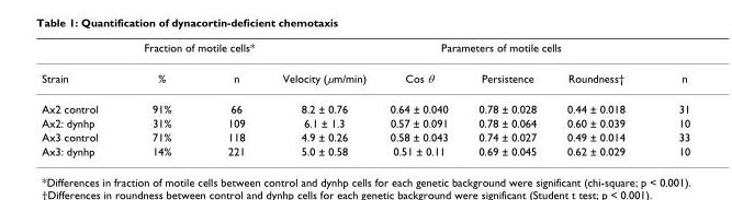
<table><thead><tr><td rowspan="2">Strain</td><td colspan="2">Fraction of motile cells*</td><td colspan="5">Parameters of motile cells</td></tr><tr><td>%</td><td>n</td><td>Velocity (μm/min)</td><td>Cos θ</td><td>Persistence</td><td>Roundness†</td><td>n</td></tr></thead><tbody><tr><td>Ax2 control</td><td>91%</td><td>66</td><td>8.2 ± 0.76</td><td>0.64 ± 0.040</td><td>0.78 ± 0.028</td><td>0.44 ± 0.018</td><td>31</td></tr><tr><td>Ax2: dynhp</td><td>31%</td><td>109</td><td>6.1 ± 1.3</td><td>0.57 ± 0.091</td><td>0.78 ± 0.064</td><td>0.60 ± 0.039</td><td>10</td></tr><tr><td>Ax3 control</td><td>71%</td><td>118</td><td>4.9 ± 0.26</td><td>0.58 ± 0.043</td><td>0.74 ± 0.027</td><td>0.49 ± 0.014</td><td>33</td></tr><tr><td>Ax3: dynhp</td><td>14%</td><td>221</td><td>5.0 ± 0.58</td><td>0.51 ± 0.11</td><td>0.69 ± 0.045</td><td>0.62 ± 0.029</td><td>10</td></tr></tbody></table>